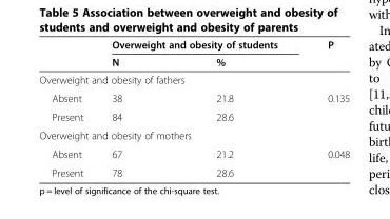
<table><thead><tr><td rowspan="2"></td><td colspan="2">Overweight and obesity of students</td><td rowspan="2">P</td></tr><tr><td>N</td><td>%</td></tr></thead><tbody><tr><td colspan="4">Overweight and obesity of fathers</td></tr><tr><td>Absent</td><td>38</td><td>21.8</td><td rowspan="2">0.135</td></tr><tr><td>Present</td><td>84</td><td>28.6</td></tr><tr><td colspan="4">Overweight and obesity of mothers</td></tr><tr><td>Absent</td><td>67</td><td>21.2</td><td rowspan="2">0.048</td></tr><tr><td>Present</td><td>78</td><td>28.6</td></tr></tbody></table>